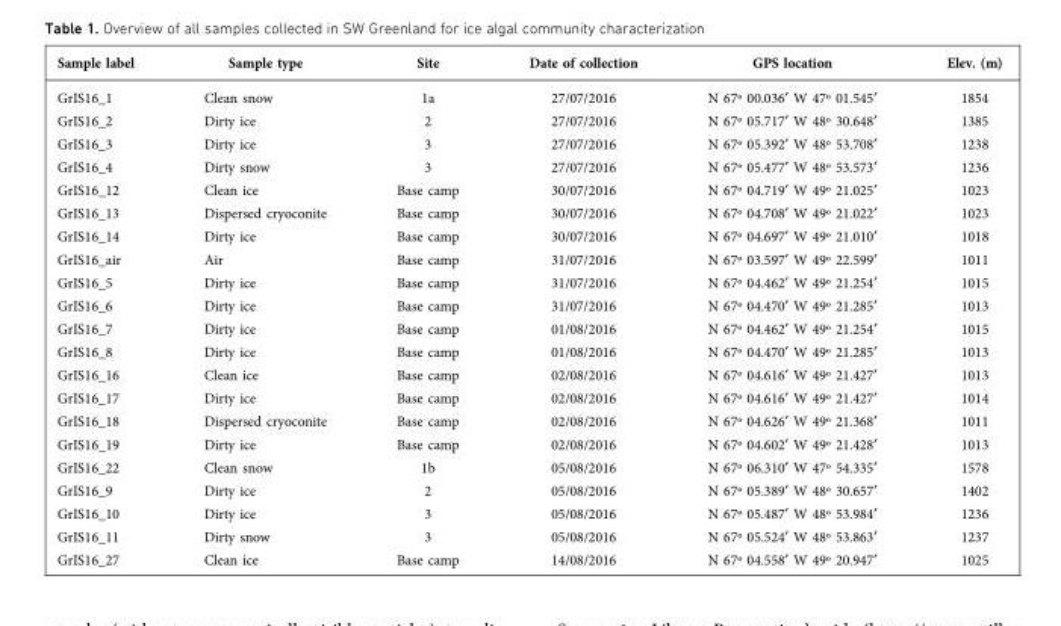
<table><thead><tr><td>Sample label</td><td>Sample type</td><td>Site</td><td>Date of collection</td><td>GPS location</td><td>Elev. (m)</td></tr></thead><tbody><tr><td>GrIS16_1</td><td>Clean snow</td><td>1a</td><td>27/07/2016</td><td>N 67º 00.036¢ W 47º 01.545¢</td><td>1854</td></tr><tr><td>GrIS16_2</td><td>Dirty ice</td><td>2</td><td>27/07/2016</td><td>N 67º 05.717¢ W 48º 30.648¢</td><td>1385</td></tr><tr><td>GrIS16_3</td><td>Dirty ice</td><td>3</td><td>27/07/2016</td><td>N 67º 05.392¢ W 48º 53.708¢</td><td>1238</td></tr><tr><td>GrIS16_4</td><td>Dirty snow</td><td>3</td><td>27/07/2016</td><td>N 67º 05.477¢ W 48º 53.573¢</td><td>1236</td></tr><tr><td>GrIS16_12</td><td>Clean ice</td><td>Base camp</td><td>30/07/2016</td><td>N 67º 04.719¢ W 49º 21.025¢</td><td>1023</td></tr><tr><td>GrIS16_13</td><td>Dispersed cryoconite</td><td>Base camp</td><td>30/07/2016</td><td>N 67º 04.708¢ W 49º 21.022¢</td><td>1023</td></tr><tr><td>GrIS16_14</td><td>Dirty ice</td><td>Base camp</td><td>30/07/2016</td><td>N 67º 04.697¢ W 49º 21.010¢</td><td>1018</td></tr><tr><td>GrIS16_air</td><td>Air</td><td>Base camp</td><td>31/07/2016</td><td>N 67º 03.597¢ W 49º 22.599¢</td><td>1011</td></tr><tr><td>GrIS16_5</td><td>Dirty ice</td><td>Base camp</td><td>31/07/2016</td><td>N 67º 04.462¢ W 49º 21.254¢</td><td>1015</td></tr><tr><td>GrIS16_6</td><td>Dirty ice</td><td>Base camp</td><td>31/07/2016</td><td>N 67º 04.470¢ W 49º 21.285¢</td><td>1013</td></tr><tr><td>GrIS16_7</td><td>Dirty ice</td><td>Base camp</td><td>01/08/2016</td><td>N 67º 04.462¢ W 49º 21.254¢</td><td>1015</td></tr><tr><td>GrIS16_8</td><td>Dirty ice</td><td>Base camp</td><td>01/08/2016</td><td>N 67º 04.470¢ W 49º 21.285¢</td><td>1013</td></tr><tr><td>GrIS16_16</td><td>Clean ice</td><td>Base camp</td><td>02/08/2016</td><td>N 67º 04.616¢ W 49º 21.427¢</td><td>1013</td></tr><tr><td>GrIS16_17</td><td>Dirty ice</td><td>Base camp</td><td>02/08/2016</td><td>N 67º 04.616¢ W 49º 21.427¢</td><td>1014</td></tr><tr><td>GrIS16_18</td><td>Dispersed cryoconite</td><td>Base camp</td><td>02/08/2016</td><td>N 67º 04.626¢ W 49º 21.368¢</td><td>1011</td></tr><tr><td>GrIS16_19</td><td>Dirty ice</td><td>Base camp</td><td>02/08/2016</td><td>N 67º 04.602¢ W 49º 21.428¢</td><td>1013</td></tr><tr><td>GrIS16_22</td><td>Clean snow</td><td>1b</td><td>05/08/2016</td><td>N 67º 06.310¢ W 47º 54.335¢</td><td>1578</td></tr><tr><td>GrIS16_9</td><td>Dirty ice</td><td>2</td><td>05/08/2016</td><td>N 67º 05.389¢ W 48º 30.657¢</td><td>1402</td></tr><tr><td>GrIS16_10</td><td>Dirty ice</td><td>3</td><td>05/08/2016</td><td>N 67º 05.487¢ W 48º 53.984¢</td><td>1236</td></tr><tr><td>GrIS16_11</td><td>Dirty snow</td><td>3</td><td>05/08/2016</td><td>N 67º 05.524¢ W 48º 53.863¢</td><td>1237</td></tr><tr><td>GrIS16_27</td><td>Clean ice</td><td>Base camp</td><td>14/08/2016</td><td>N 67º 04.558¢ W 49º 20.947¢</td><td>1025</td></tr></tbody></table>